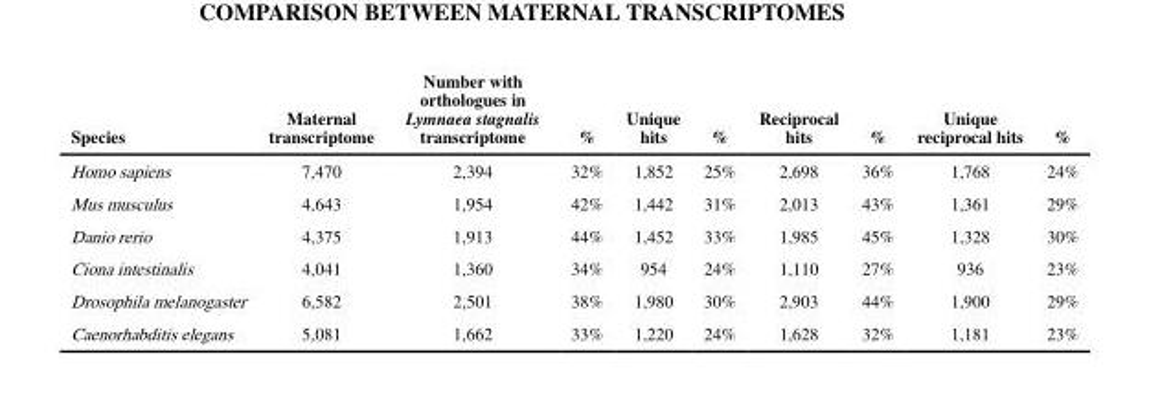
<table><thead><tr><td>Species</td><td>Maternal transcriptome</td><td>Number with orthologues in Lymnaea stagnalis transcriptome</td><td>%</td><td>Unique hits</td><td>%</td><td>Reciprocal hits</td><td>%</td><td>Unique reciprocal hits</td><td>%</td></tr></thead><tbody><tr><td>Homo sapiens</td><td>7,470</td><td>2,394</td><td>32%</td><td>1,852</td><td>25%</td><td>2,698</td><td>36%</td><td>1,768</td><td>24%</td></tr><tr><td>Mus musculus</td><td>4,643</td><td>1,954</td><td>42%</td><td>1,442</td><td>31%</td><td>2,013</td><td>43%</td><td>1,361</td><td>29%</td></tr><tr><td>Danio rerio</td><td>4,375</td><td>1,913</td><td>44%</td><td>1,452</td><td>33%</td><td>1,985</td><td>45%</td><td>1,328</td><td>30%</td></tr><tr><td>Ciona intestinalis</td><td>4,041</td><td>1,360</td><td>34%</td><td>954</td><td>24%</td><td>1,110</td><td>27%</td><td>936</td><td>23%</td></tr><tr><td>Drosophila melanogaster</td><td>6,582</td><td>2,501</td><td>38%</td><td>1,980</td><td>30%</td><td>2,903</td><td>44%</td><td>1,900</td><td>29%</td></tr><tr><td>Caenorhabditis elegans</td><td>5,081</td><td>1,662</td><td>33%</td><td>1,220</td><td>24%</td><td>1,628</td><td>32%</td><td>1,181</td><td>23%</td></tr></tbody></table>